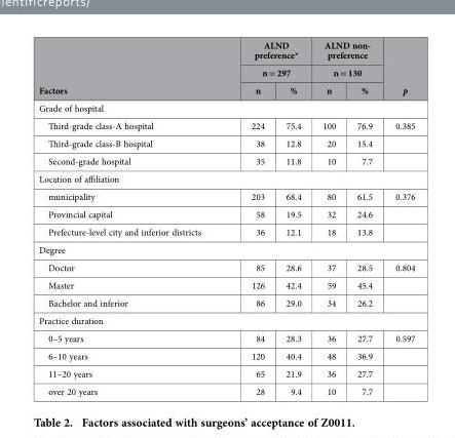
<table><thead><tr><td rowspan="3">Factors</td><td rowspan="2" colspan="2">ALND preference* n = 297</td><td rowspan="2" colspan="2">ALND non- preference n = 130</td><td rowspan="3">p</td></tr><tr></tr><tr><td>n</td><td>%</td><td>n</td><td>%</td></tr></thead><tbody><tr><td colspan="6">Grade of hospital</td></tr><tr><td>Third-grade class-A hospital</td><td>224</td><td>75.4</td><td>100</td><td>76.9</td><td>0.385</td></tr><tr><td>Third-grade class-B hospital</td><td>38</td><td>12.8</td><td>20</td><td>15.4</td><td></td></tr><tr><td>Second-grade hospital</td><td>35</td><td>11.8</td><td>10</td><td>7.7</td><td></td></tr><tr><td colspan="6">Location of affiliation</td></tr><tr><td>municipality</td><td>203</td><td>68.4</td><td>80</td><td>61.5</td><td>0.376</td></tr><tr><td>Provincial capital</td><td>58</td><td>19.5</td><td>32</td><td>24.6</td><td></td></tr><tr><td>Prefecture-level city and inferior districts</td><td>36</td><td>12.1</td><td>18</td><td>13.8</td><td></td></tr><tr><td colspan="6">Degree</td></tr><tr><td>Doctor</td><td>85</td><td>28.6</td><td>37</td><td>28.5</td><td>0.804</td></tr><tr><td>Master</td><td>126</td><td>42.4</td><td>59</td><td>45.4</td><td></td></tr><tr><td>Bachelor and inferior</td><td>86</td><td>29.0</td><td>34</td><td>26.2</td><td></td></tr><tr><td colspan="6">Practice duration</td></tr><tr><td>0–5 years</td><td>84</td><td>28.3</td><td>36</td><td>27.7</td><td>0.597</td></tr><tr><td>6–10 years</td><td>120</td><td>40.4</td><td>48</td><td>36.9</td><td></td></tr><tr><td>11–20 years</td><td>65</td><td>21.9</td><td>36</td><td>27.7</td><td></td></tr><tr><td>over 20 years</td><td>28</td><td>9.4</td><td>10</td><td>7.7</td><td></td></tr></tbody></table>